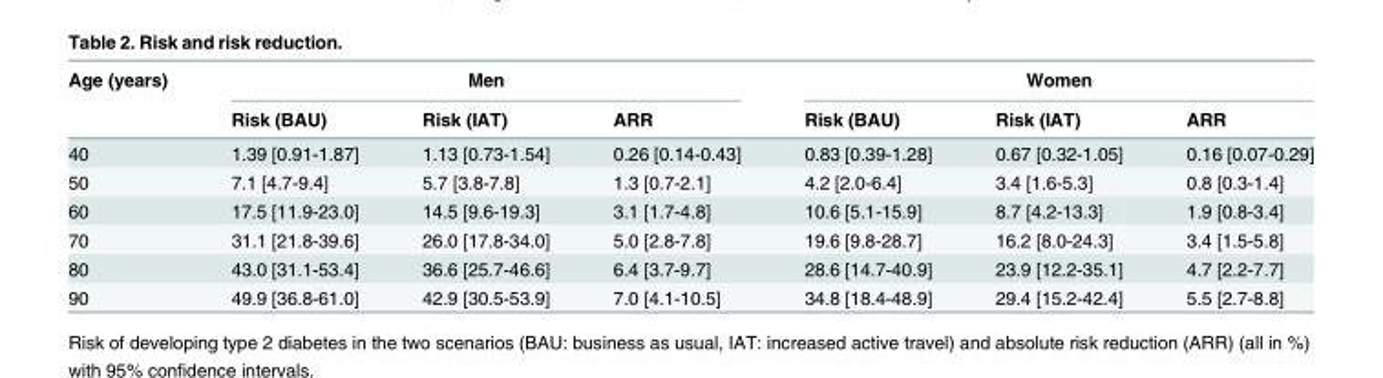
<table><thead><tr><td rowspan="2">Age (years)</td><td colspan="3">Men</td><td colspan="3">Women</td></tr><tr><td>Risk (BAU)</td><td>Risk (IAT)</td><td>ARR</td><td>Risk (BAU)</td><td>Risk (IAT)</td><td>ARR</td></tr></thead><tbody><tr><td>40</td><td>1.39 [0.91-1.87]</td><td>1.13 [0.73-1.54]</td><td>0.26 [0.14-0.43]</td><td>0.83 [0.39-1.28]</td><td>0.67 [0.32-1.05]</td><td>0.16 [0.07-0.29]</td></tr><tr><td>50</td><td>7.1 [4.7-9.4]</td><td>5.7 [3.8-7.8]</td><td>1.3 [0.7-2.1]</td><td>4.2 [2.0-6.4]</td><td>3.4 [1.6-5.3]</td><td>0.8 [0.3-1.4]</td></tr><tr><td>60</td><td>17.5 [11.9-23.0]</td><td>14.5 [9.6-19.3]</td><td>3.1 [1.7-4.8]</td><td>10.6 [5.1-15.9]</td><td>8.7 [4.2-13.3]</td><td>1.9 [0.8-3.4]</td></tr><tr><td>70</td><td>31.1 [21.8-39.6]</td><td>26.0 [17.8-34.0]</td><td>5.0 [2.8-7.8]</td><td>19.6 [9.8-28.7]</td><td>16.2 [8.0-24.3]</td><td>3.4 [1.5-5.8]</td></tr><tr><td>80</td><td>43.0 [31.1-53.4]</td><td>36.6 [25.7-46.6]</td><td>6.4 [3.7-9.7]</td><td>28.6 [14.7-40.9]</td><td>23.9 [12.2-35.1]</td><td>4.7 [2.2-7.7]</td></tr><tr><td>90</td><td>49.9 [36.8-61.0]</td><td>42.9 [30.5-53.9]</td><td>7.0 [4.1-10.5]</td><td>34.8 [18.4-48.9]</td><td>29.4 [15.2-42.4]</td><td>5.5 [2.7-8.8]</td></tr></tbody></table>